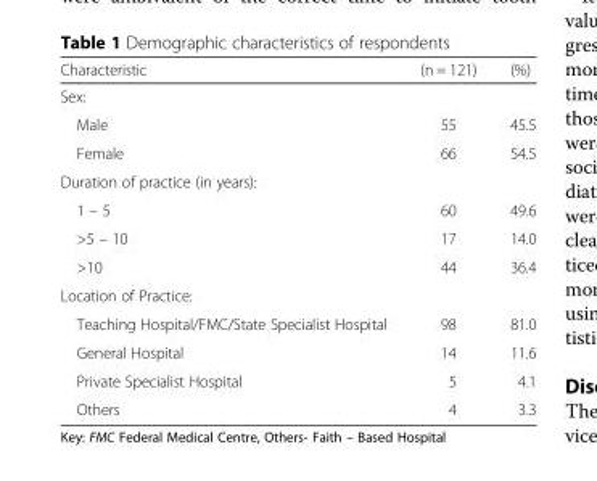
<table><thead><tr><td>Characteristic</td><td>(n = 121)</td><td>(%)</td></tr></thead><tbody><tr><td colspan="3">Sex:</td></tr><tr><td>Male</td><td>55</td><td>45.5</td></tr><tr><td>Female</td><td>66</td><td>54.5</td></tr><tr><td colspan="3">Duration of practice (in years):</td></tr><tr><td>1 – 5</td><td>60</td><td>49.6</td></tr><tr><td>&gt;5 – 10</td><td>17</td><td>14.0</td></tr><tr><td>&gt;10</td><td>44</td><td>36.4</td></tr><tr><td colspan="3">Location of Practice:</td></tr><tr><td>Teaching Hospital/FMC/State Specialist Hospital</td><td>98</td><td>81.0</td></tr><tr><td>General Hospital</td><td>14</td><td>11.6</td></tr><tr><td>Private Specialist Hospital</td><td>5</td><td>4.1</td></tr><tr><td>Others</td><td>4</td><td>3.3</td></tr></tbody></table>